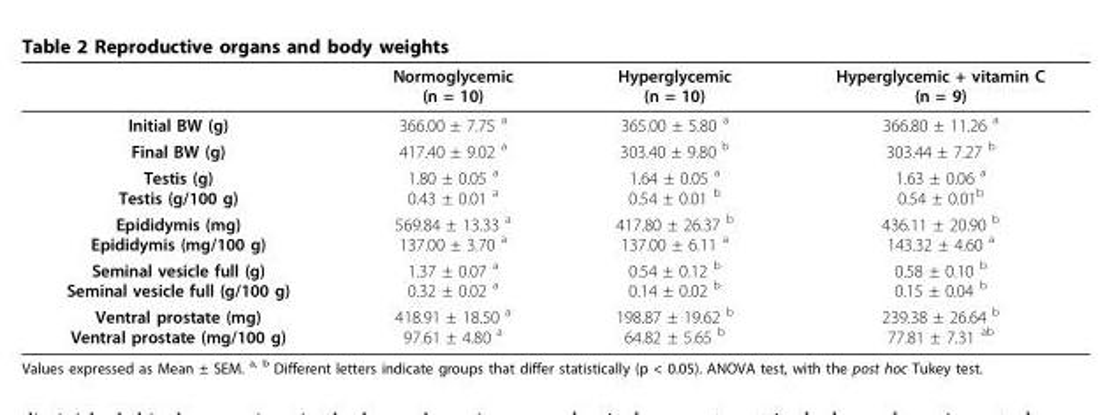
<table><thead><tr><td></td><td>Normoglycemic (n = 10)</td><td>Hyperglycemic (n = 10)</td><td>Hyperglycemic + vitamin C (n = 9)</td></tr></thead><tbody><tr><td>Initial BW (g)</td><td>366.00 ± 7.75 <sup>a</sup></td><td>365.00 ± 5.80 <sup>a</sup></td><td>366.80 ± 11.26 <sup>a</sup></td></tr><tr><td>Final BW (g)</td><td>417.40 ± 9.02 <sup>a</sup></td><td>303.40 ± 9.80 <sup>b</sup></td><td>303.44 ± 7.27 <sup>b</sup></td></tr><tr><td>Testis (g) Testis (g/100 g)</td><td>1.80 ± 0.05 <sup>a</sup> 0.43 ± 0.01 <sup>a</sup></td><td>1.64 ± 0.05 <sup>a</sup> 0.54 ± 0.01 <sup>b</sup></td><td>1.63 ± 0.06 <sup>a</sup> 0.54 ± 0.01<sup>b</sup></td></tr><tr><td>Epididymis (mg) Epididymis (mg/100 g)</td><td>569.84 ± 13.33 <sup>a</sup> 137.00 ± 3.70 <sup>a</sup></td><td>417.80 ± 26.37 <sup>b</sup> 137.00 ± 6.11 <sup>a</sup></td><td>436.11 ± 20.90 <sup>b</sup> 143.32 ± 4.60 <sup>a</sup></td></tr><tr><td>Seminal vesicle full (g) Seminal vesicle full (g/100 g)</td><td>1.37 ± 0.07 <sup>a</sup> 0.32 ± 0.02 <sup>a</sup></td><td>0.54 ± 0.12 <sup>b</sup> 0.14 ± 0.02 <sup>b</sup></td><td>0.58 ± 0.10 <sup>b</sup> 0.15 ± 0.04 <sup>b</sup></td></tr><tr><td>Ventral prostate (mg) Ventral prostate (mg/100 g)</td><td>418.91 ± 18.50 <sup>a</sup> 97.61 ± 4.80 <sup>a</sup></td><td>198.87 ± 19.62 <sup>b</sup> 64.82 ± 5.65 <sup>b</sup></td><td>239.38 ± 26.64 <sup>b</sup> 77.81 ± 7.31 <sup>ab</sup></td></tr></tbody></table>